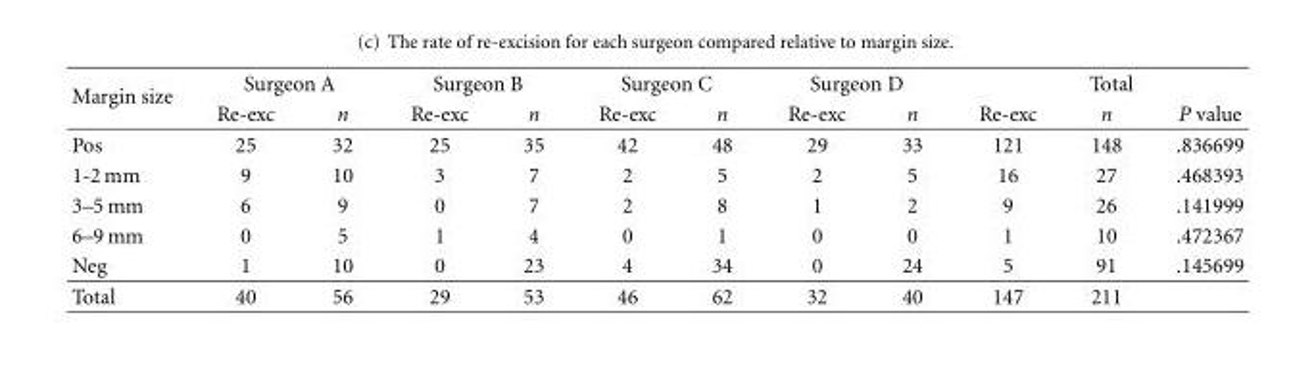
<table><tbody><tr><td rowspan="2">Margin size</td><td colspan="2">Surgeon A</td><td colspan="2">Surgeon B</td><td colspan="2">Surgeon C</td><td colspan="2">Surgeon D</td><td colspan="3">Total</td></tr><tr><td>Re-exc</td><td>n</td><td>Re-exc</td><td>n</td><td>Re-exc</td><td>n</td><td>Re-exc</td><td>n</td><td>Re-exc</td><td>n</td><td>P value</td></tr><tr><td>Pos</td><td>25</td><td>32</td><td>25</td><td>35</td><td>42</td><td>48</td><td>29</td><td>33</td><td>121</td><td>148</td><td>.836699</td></tr><tr><td>1-2 mm</td><td>9</td><td>10</td><td>3</td><td>7</td><td>2</td><td>5</td><td>2</td><td>5</td><td>16</td><td>27</td><td>.468393</td></tr><tr><td>3–5 mm</td><td>6</td><td>9</td><td>0</td><td>7</td><td>2</td><td>8</td><td>1</td><td>2</td><td>9</td><td>26</td><td>.141999</td></tr><tr><td>6–9 mm</td><td>0</td><td>5</td><td>1</td><td>4</td><td>0</td><td>1</td><td>0</td><td>0</td><td>1</td><td>10</td><td>.472367</td></tr><tr><td>Neg</td><td>1</td><td>10</td><td>0</td><td>23</td><td>4</td><td>34</td><td>0</td><td>24</td><td>5</td><td>91</td><td>.145699</td></tr><tr><td>Total</td><td>40</td><td>56</td><td>29</td><td>53</td><td>46</td><td>62</td><td>32</td><td>40</td><td>147</td><td>211</td><td></td></tr></tbody></table>